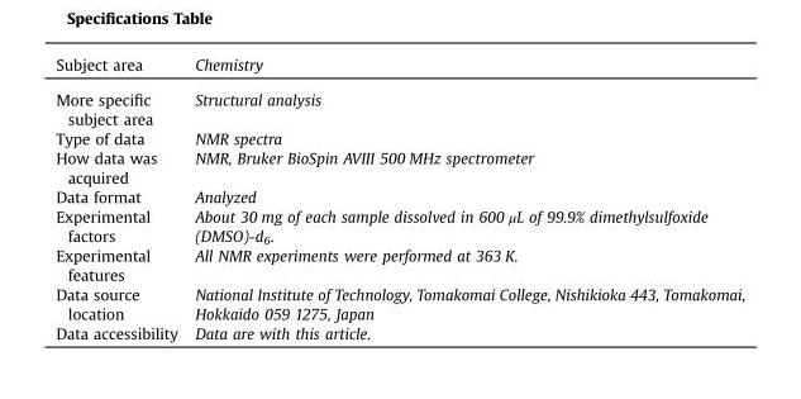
<table><thead><tr><td>Subject area</td><td>Chemistry</td></tr></thead><tbody><tr><td>More specific subject area</td><td>Structural analysis</td></tr><tr><td>Type of data</td><td>NMR spectra</td></tr><tr><td>How data was acquired</td><td>NMR, Bruker BioSpin AVIII 500 MHz spectrometer</td></tr><tr><td>Data format</td><td>Analyzed</td></tr><tr><td>Experimental factors</td><td>About 30 mg of each sample dissolved in 600 μL of 99.9% dimethylsulfoxide (DMSO)-d<sub>6</sub>.</td></tr><tr><td>Experimental features</td><td>All NMR experiments were performed at 363 K.</td></tr><tr><td>Data source location</td><td>National Institute of Technology, Tomakomai College, Nishikioka 443, Tomakomai, Hokkaido 059 1275, Japan</td></tr><tr><td>Data accessibility</td><td>Data are with this article.</td></tr></tbody></table>